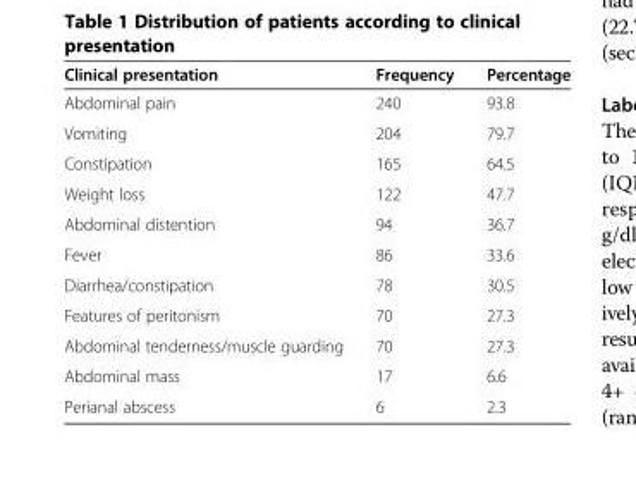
<table><thead><tr><td>Clinical presentation</td><td>Frequency</td><td>Percentage</td></tr></thead><tbody><tr><td>Abdominal pain</td><td>240</td><td>93.8</td></tr><tr><td>Vomiting</td><td>204</td><td>79.7</td></tr><tr><td>Constipation</td><td>165</td><td>64.5</td></tr><tr><td>Weight loss</td><td>122</td><td>47.7</td></tr><tr><td>Abdominal distention</td><td>94</td><td>36.7</td></tr><tr><td>Fever</td><td>86</td><td>33.6</td></tr><tr><td>Diarrhea/constipation</td><td>78</td><td>30.5</td></tr><tr><td>Features of peritonism</td><td>70</td><td>27.3</td></tr><tr><td>Abdominal tenderness/muscle guarding</td><td>70</td><td>27.3</td></tr><tr><td>Abdominal mass</td><td>17</td><td>6.6</td></tr><tr><td>Perianal abscess</td><td>6</td><td>2.3</td></tr></tbody></table>